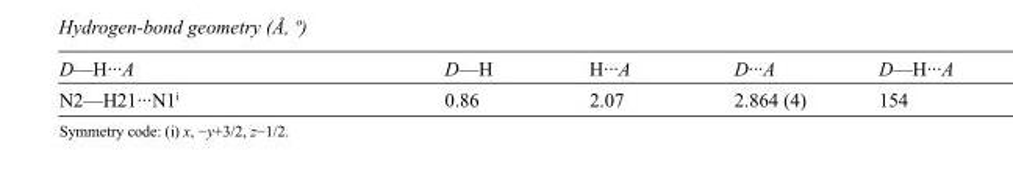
<table><tbody><tr><td>D—H···A</td><td>D—H</td><td>H···A</td><td>D···A</td><td>D—H···A</td></tr><tr><td>N2—H21···N1<sup>i</sup></td><td>0.86</td><td>2.07</td><td>2.864 (4)</td><td>154</td></tr></tbody></table>